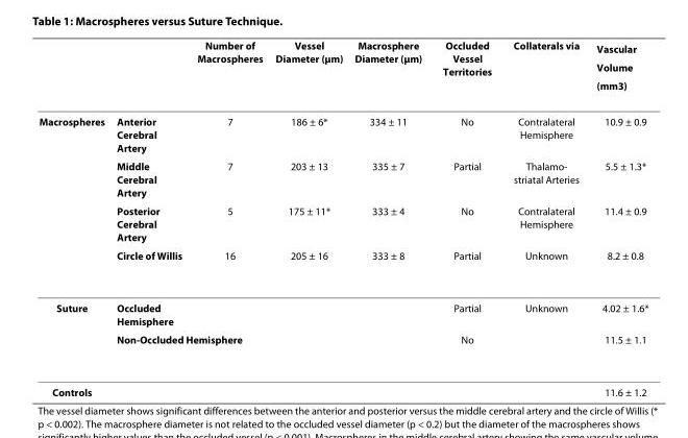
<table><thead><tr><td></td><td></td><td>Number of Macrospheres</td><td>Vessel Diameter (μm)</td><td>Macrosphere Diameter (μm)</td><td>Occluded Vessel Territories</td><td>Collaterals via</td><td>Vascular Volume (mm<sup>3</sup>)</td></tr></thead><tbody><tr><td rowspan="4">Macrospheres</td><td>Anterior Cerebral Artery</td><td>7</td><td>186 ± 6*</td><td>334 ± 11</td><td>No</td><td>Contralateral Hemisphere</td><td>10.9 ± 0.9</td></tr><tr><td>Middle Cerebral Artery</td><td>7</td><td>203 ± 13</td><td>335 ± 7</td><td>Partial</td><td>Thalamo- striatal Arteries</td><td>5.5 ± 1.3*</td></tr><tr><td>Posterior Cerebral Artery</td><td>5</td><td>175 ± 11*</td><td>333 ± 4</td><td>No</td><td>Contralateral Hemisphere</td><td>11.4 ± 0.9</td></tr><tr><td>Circle of Willis</td><td>16</td><td>205 ± 16</td><td>333 ± 8</td><td>Partial</td><td>Unknown</td><td>8.2 ± 0.8</td></tr><tr><td rowspan="2">Suture</td><td>Occluded Hemisphere</td><td></td><td></td><td></td><td>Partial</td><td>Unknown</td><td>4.02 ± 1.6*</td></tr><tr><td colspan="2">Non-Occluded Hemisphere</td><td></td><td></td><td>No</td><td></td><td>11.5 ± 1.1</td></tr><tr><td>Controls</td><td></td><td></td><td></td><td></td><td></td><td></td><td>11.6 ± 1.2</td></tr></tbody></table>